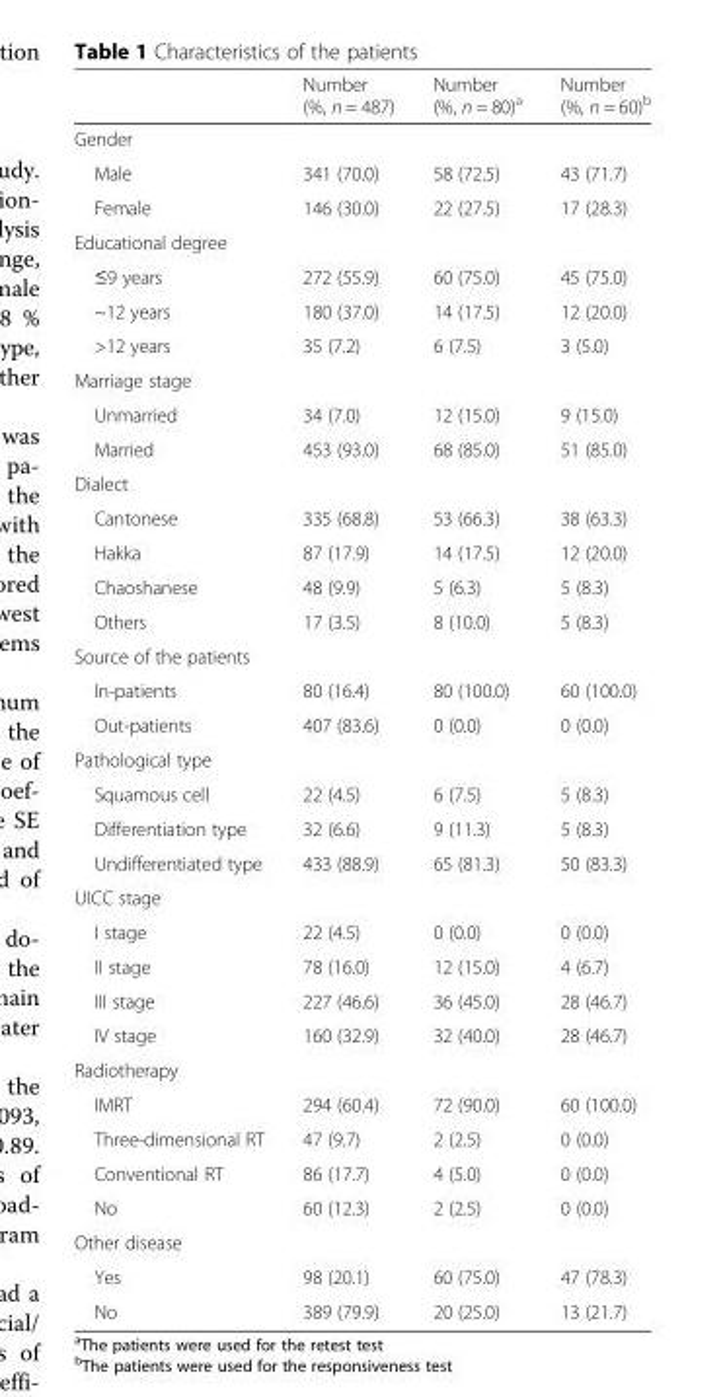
<table><thead><tr><td></td><td>Number (%, n = 487)</td><td>Number (%, n = 80)<sup>a</sup></td><td>Number (%, n = 60)<sup>b</sup></td></tr></thead><tbody><tr><td colspan="4">Gender</td></tr><tr><td>Male</td><td>341 (70.0)</td><td>58 (72.5)</td><td>43 (71.7)</td></tr><tr><td>Female</td><td>146 (30.0)</td><td>22 (27.5)</td><td>17 (28.3)</td></tr><tr><td colspan="4">Educational degree</td></tr><tr><td>≤9 years</td><td>272 (55.9)</td><td>60 (75.0)</td><td>45 (75.0)</td></tr><tr><td>~12 years</td><td>180 (37.0)</td><td>14 (17.5)</td><td>12 (20.0)</td></tr><tr><td>&gt;12 years</td><td>35 (7.2)</td><td>6 (7.5)</td><td>3 (5.0)</td></tr><tr><td colspan="4">Marriage stage</td></tr><tr><td>Unmarried</td><td>34 (7.0)</td><td>12 (15.0)</td><td>9 (15.0)</td></tr><tr><td>Married</td><td>453 (93.0)</td><td>68 (85.0)</td><td>51 (85.0)</td></tr><tr><td colspan="4">Dialect</td></tr><tr><td>Cantonese</td><td>335 (68.8)</td><td>53 (66.3)</td><td>38 (63.3)</td></tr><tr><td>Hakka</td><td>87 (17.9)</td><td>14 (17.5)</td><td>12 (20.0)</td></tr><tr><td>Chaoshanese</td><td>48 (9.9)</td><td>5 (6.3)</td><td>5 (8.3)</td></tr><tr><td>Others</td><td>17 (3.5)</td><td>8 (10.0)</td><td>5 (8.3)</td></tr><tr><td colspan="4">Source of the patients</td></tr><tr><td>In-patients</td><td>80 (16.4)</td><td>80 (100.0)</td><td>60 (100.0)</td></tr><tr><td>Out-patients</td><td>407 (83.6)</td><td>0 (0.0)</td><td>0 (0.0)</td></tr><tr><td colspan="4">Pathological type</td></tr><tr><td>Squamous cell</td><td>22 (4.5)</td><td>6 (7.5)</td><td>5 (8.3)</td></tr><tr><td>Differentiation type</td><td>32 (6.6)</td><td>9 (11.3)</td><td>5 (8.3)</td></tr><tr><td>Undifferentiated type</td><td>433 (88.9)</td><td>65 (81.3)</td><td>50 (83.3)</td></tr><tr><td colspan="4">UICC stage</td></tr><tr><td>I stage</td><td>22 (4.5)</td><td>0 (0.0)</td><td>0 (0.0)</td></tr><tr><td>II stage</td><td>78 (16.0)</td><td>12 (15.0)</td><td>4 (6.7)</td></tr><tr><td>III stage</td><td>227 (46.6)</td><td>36 (45.0)</td><td>28 (46.7)</td></tr><tr><td>IV stage</td><td>160 (32.9)</td><td>32 (40.0)</td><td>28 (46.7)</td></tr><tr><td colspan="4">Radiotherapy</td></tr><tr><td>IMRT</td><td>294 (60.4)</td><td>72 (90.0)</td><td>60 (100.0)</td></tr><tr><td>Three-dimensional RT</td><td>47 (9.7)</td><td>2 (2.5)</td><td>0 (0.0)</td></tr><tr><td>Conventional RT</td><td>86 (17.7)</td><td>4 (5.0)</td><td>0 (0.0)</td></tr><tr><td>No</td><td>60 (12.3)</td><td>2 (2.5)</td><td>0 (0.0)</td></tr><tr><td colspan="4">Other disease</td></tr><tr><td>Yes</td><td>98 (20.1)</td><td>60 (75.0)</td><td>47 (78.3)</td></tr><tr><td>No</td><td>389 (79.9)</td><td>20 (25.0)</td><td>13 (21.7)</td></tr></tbody></table>